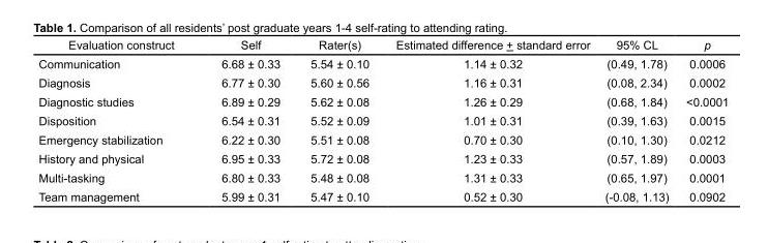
<table><thead><tr><td>Evaluation construct</td><td>Self</td><td>Rater(s)</td><td>Estimated difference + standard error</td><td>95% CL</td><td>p</td></tr></thead><tbody><tr><td>Communication</td><td>6.68 ± 0.33</td><td>5.54 ± 0.10</td><td>1.14 ± 0.32</td><td>(0.49, 1.78)</td><td>0.0006</td></tr><tr><td>Diagnosis</td><td>6.77 ± 0.30</td><td>5.60 ± 0.56</td><td>1.16 ± 0.31</td><td>(0.08, 2.34)</td><td>0.0002</td></tr><tr><td>Diagnostic studies</td><td>6.89 ± 0.29</td><td>5.62 ± 0.08</td><td>1.26 ± 0.29</td><td>(0.68, 1.84)</td><td>&lt;0.0001</td></tr><tr><td>Disposition</td><td>6.54 ± 0.31</td><td>5.52 ± 0.09</td><td>1.01 ± 0.31</td><td>(0.39, 1.63)</td><td>0.0015</td></tr><tr><td>Emergency stabilization</td><td>6.22 ± 0.30</td><td>5.51 ± 0.08</td><td>0.70 ± 0.30</td><td>(0.10, 1.30)</td><td>0.0212</td></tr><tr><td>History and physical</td><td>6.95 ± 0.33</td><td>5.72 ± 0.08</td><td>1.23 ± 0.33</td><td>(0.57, 1.89)</td><td>0.0003</td></tr><tr><td>Multi-tasking</td><td>6.80 ± 0.33</td><td>5.48 ± 0.08</td><td>1.31 ± 0.33</td><td>(0.65, 1.97)</td><td>0.0001</td></tr><tr><td>Team management</td><td>5.99 ± 0.31</td><td>5.47 ± 0.10</td><td>0.52 ± 0.30</td><td>(-0.08, 1.13)</td><td>0.0902</td></tr></tbody></table>